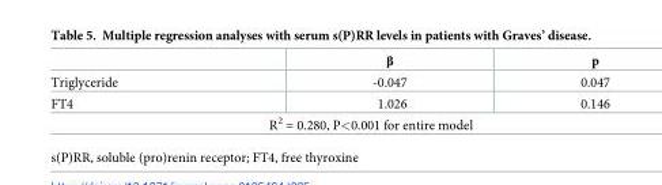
<table><thead><tr><td></td><td>β</td><td>p</td></tr></thead><tbody><tr><td>Triglyceride</td><td>-0.047</td><td>0.047</td></tr><tr><td>FT4</td><td>1.026</td><td>0.146</td></tr><tr><td colspan="3">R<sup>2</sup> = 0.280, P&lt;0.001 for entire model</td></tr></tbody></table>